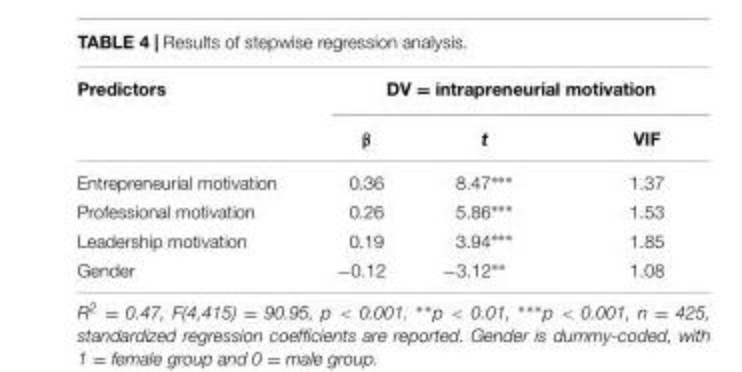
<table><thead><tr><td rowspan="2">Predictors</td><td colspan="3">DV = intrapreneurial motivation</td></tr><tr><td>β</td><td>t</td><td>VIF</td></tr></thead><tbody><tr><td>Entrepreneurial motivation</td><td>0.36</td><td>8.47∗∗∗</td><td>1.37</td></tr><tr><td>Professional motivation</td><td>0.26</td><td>5.86∗∗∗</td><td>1.53</td></tr><tr><td>Leadership motivation</td><td>0.19</td><td>3.94∗∗∗</td><td>1.85</td></tr><tr><td>Gender</td><td>−0.12</td><td>−3.12∗∗</td><td>1.08</td></tr></tbody></table>